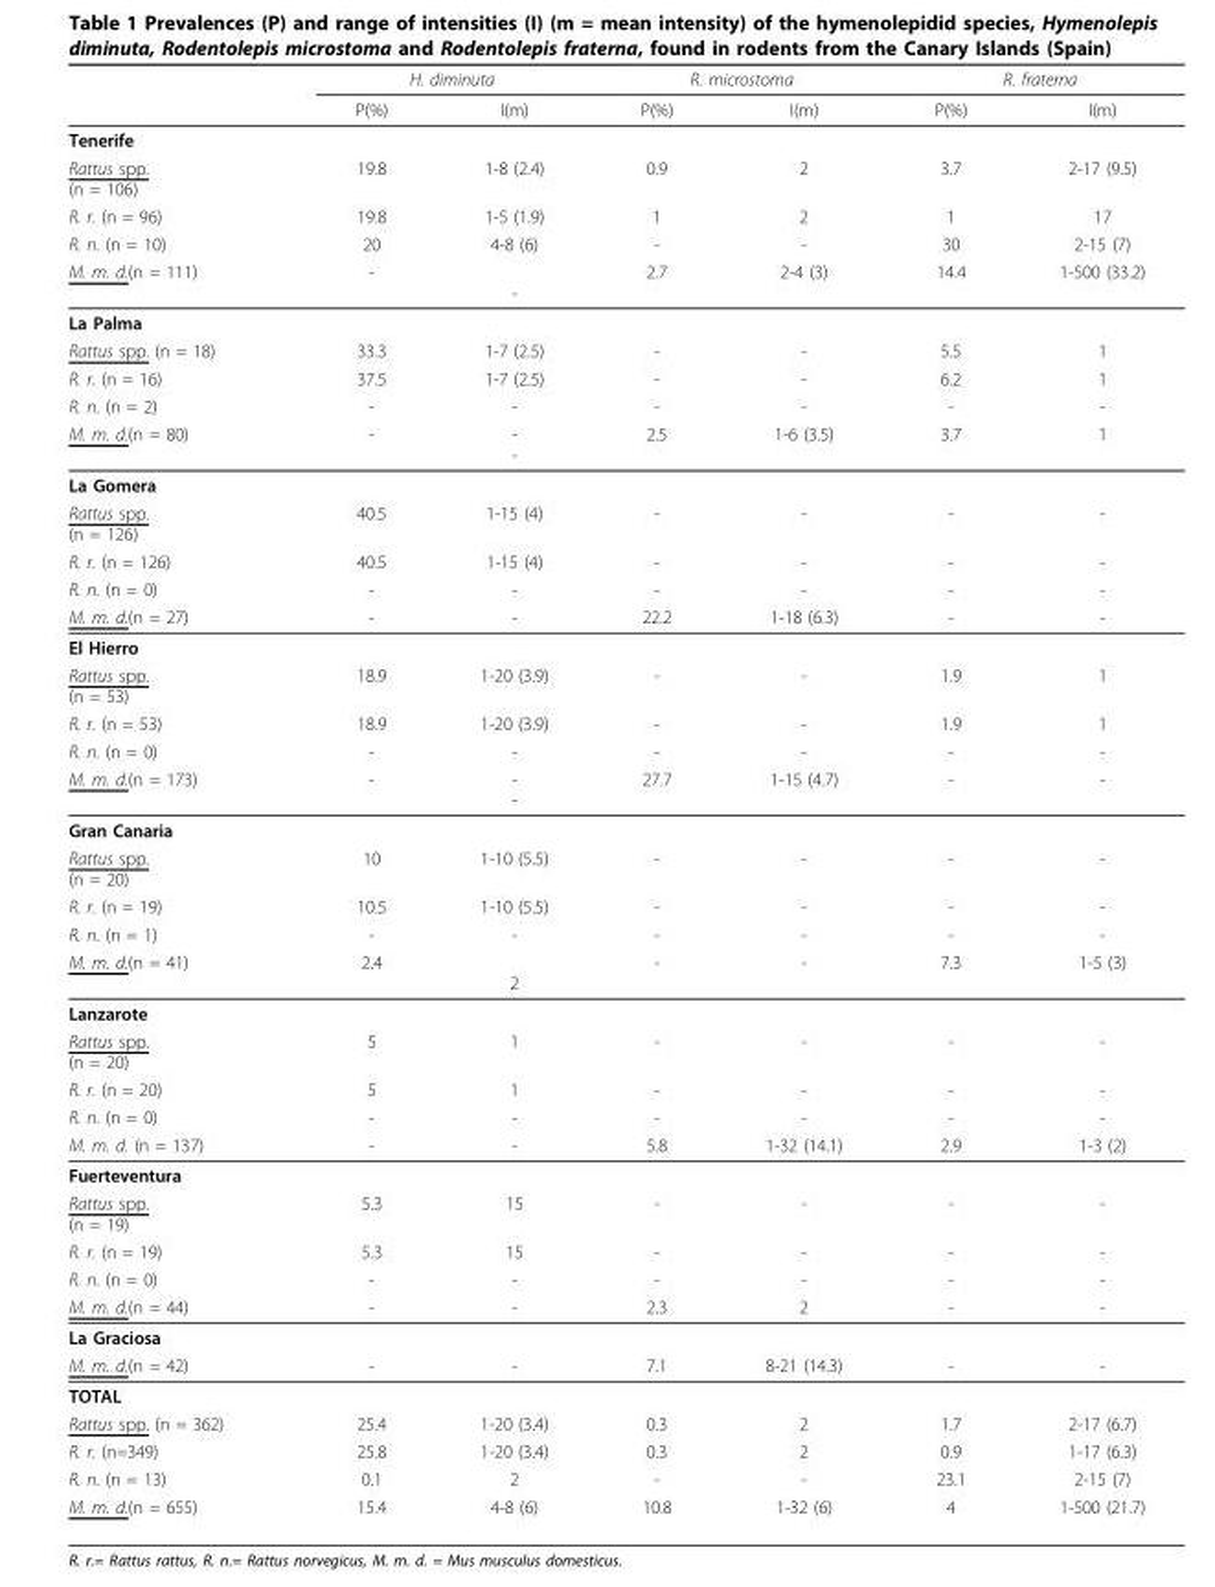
<table><thead><tr><td rowspan="2"></td><td colspan="2">H. diminuta</td><td colspan="2">R. microstoma</td><td colspan="2">R. fraterna</td></tr><tr><td>P(%)</td><td>I(m)</td><td>P(%)</td><td>I(m)</td><td>P(%)</td><td>I(m)</td></tr></thead><tbody><tr><td colspan="7">Tenerife</td></tr><tr><td>Rattus spp. (n = 106)</td><td>19.8</td><td>1-8 (2.4)</td><td>0.9</td><td>2</td><td>3.7</td><td>2-17 (9.5)</td></tr><tr><td>R. r. (n = 96)</td><td>19.8</td><td>1-5 (1.9)</td><td>1</td><td>2</td><td>1</td><td>17</td></tr><tr><td>R. n. (n = 10)</td><td>20</td><td>4-8 (6)</td><td>-</td><td>-</td><td>30</td><td>2-15 (7)</td></tr><tr><td>M. m. d.(n = 111)</td><td>-</td><td>-</td><td>2.7</td><td>2-4 (3)</td><td>14.4</td><td>1-500 (33.2)</td></tr><tr><td colspan="7">La Palma</td></tr><tr><td>Rattus spp. (n = 18)</td><td>33.3</td><td>1-7 (2.5)</td><td>-</td><td>-</td><td>5.5</td><td>1</td></tr><tr><td>R. r. (n = 16)</td><td>37.5</td><td>1-7 (2.5)</td><td>-</td><td>-</td><td>6.2</td><td>1</td></tr><tr><td>R. n. (n = 2)</td><td>-</td><td>-</td><td>-</td><td>-</td><td>-</td><td>-</td></tr><tr><td>M. m. d.(n = 80)</td><td>-</td><td>- -</td><td>2.5</td><td>1-6 (3.5)</td><td>3.7</td><td>1</td></tr><tr><td colspan="7">La Gomera</td></tr><tr><td>Rattus spp. (n = 126)</td><td>40.5</td><td>1-15 (4)</td><td>-</td><td>-</td><td>-</td><td>-</td></tr><tr><td>R. r. (n = 126)</td><td>40.5</td><td>1-15 (4)</td><td>-</td><td>-</td><td>-</td><td>-</td></tr><tr><td>R. n. (n = 0)</td><td>-</td><td>-</td><td>-</td><td>-</td><td>-</td><td>-</td></tr><tr><td>M. m. d.(n = 27)</td><td>-</td><td>-</td><td>22.2</td><td>1-18 (6.3)</td><td>-</td><td>-</td></tr><tr><td colspan="7">El Hierro</td></tr><tr><td>Rattus spp. (n = 53)</td><td>18.9</td><td>1-20 (3.9)</td><td>-</td><td>-</td><td>1.9</td><td>1</td></tr><tr><td>R. r. (n = 53)</td><td>18.9</td><td>1-20 (3.9)</td><td>-</td><td>-</td><td>1.9</td><td>1</td></tr><tr><td>R. n. (n = 0)</td><td>-</td><td>-</td><td>-</td><td>-</td><td>-</td><td>-</td></tr><tr><td>M. m. d.(n = 173)</td><td>-</td><td>- -</td><td>27.7</td><td>1-15 (4.7)</td><td>-</td><td>-</td></tr><tr><td colspan="7">Gran Canaria</td></tr><tr><td>Rattus spp. (n = 20)</td><td>10</td><td>1-10 (5.5)</td><td>-</td><td>-</td><td>-</td><td>-</td></tr><tr><td>R. r. (n = 19)</td><td>10.5</td><td>1-10 (5.5)</td><td>-</td><td>-</td><td>-</td><td>-</td></tr><tr><td>R. n. (n = 1)</td><td>-</td><td>-</td><td>-</td><td>-</td><td>-</td><td>-</td></tr><tr><td>M. m. d.(n = 41)</td><td>2.4</td><td>2</td><td>-</td><td>-</td><td>7.3</td><td>1-5 (3)</td></tr><tr><td colspan="7">Lanzarote</td></tr><tr><td>Rattus spp. (n = 20)</td><td>5</td><td>1</td><td>-</td><td>-</td><td>-</td><td>-</td></tr><tr><td>R. r. (n = 20)</td><td>5</td><td>1</td><td>-</td><td>-</td><td>-</td><td>-</td></tr><tr><td>R. n. (n = 0)</td><td>-</td><td>-</td><td>-</td><td>-</td><td>-</td><td>-</td></tr><tr><td>M. m. d. (n = 137)</td><td>-</td><td>-</td><td>5.8</td><td>1-32 (14.1)</td><td>2.9</td><td>1-3 (2)</td></tr><tr><td colspan="7">Fuerteventura</td></tr><tr><td>Rattus spp. (n = 19)</td><td>5.3</td><td>15</td><td>-</td><td>-</td><td>-</td><td>-</td></tr><tr><td>R. r. (n = 19)</td><td>5.3</td><td>15</td><td>-</td><td>-</td><td>-</td><td>-</td></tr><tr><td>R. n. (n = 0)</td><td>-</td><td>-</td><td>-</td><td>-</td><td>-</td><td>-</td></tr><tr><td>M. m. d.(n = 44)</td><td>-</td><td>-</td><td>2.3</td><td>2</td><td>-</td><td>-</td></tr><tr><td colspan="7">La Graciosa</td></tr><tr><td>M. m. d.(n = 42)</td><td>-</td><td>-</td><td>7.1</td><td>8-21 (14.3)</td><td>-</td><td>-</td></tr><tr><td colspan="7">TOTAL</td></tr><tr><td>Rattus spp. (n = 362)</td><td>25.4</td><td>1-20 (3.4)</td><td>0.3</td><td>2</td><td>1.7</td><td>2-17 (6.7)</td></tr><tr><td>R. r. (n=349)</td><td>25.8</td><td>1-20 (3.4)</td><td>0.3</td><td>2</td><td>0.9</td><td>1-17 (6.3)</td></tr><tr><td>R. n. (n = 13)</td><td>0.1</td><td>2</td><td>-</td><td>-</td><td>23.1</td><td>2-15 (7)</td></tr><tr><td>M. m. d.(n = 655)</td><td>15.4</td><td>4-8 (6)</td><td>10.8</td><td>1-32 (6)</td><td>4</td><td>1-500 (21.7)</td></tr></tbody></table>